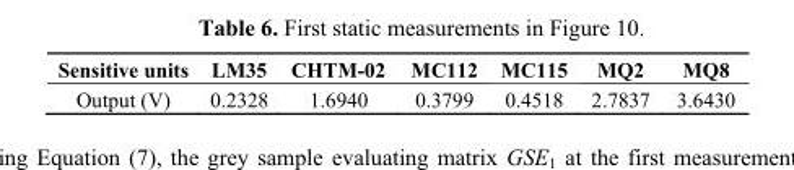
<table><thead><tr><td>Sensitive units</td><td>LM35</td><td>CHTM-02</td><td>MC112</td><td>MC115</td><td>MQ2</td><td>MQ8</td></tr></thead><tbody><tr><td>Output (V)</td><td>0.2328</td><td>1.6940</td><td>0.3799</td><td>0.4518</td><td>2.7837</td><td>3.6430</td></tr></tbody></table>